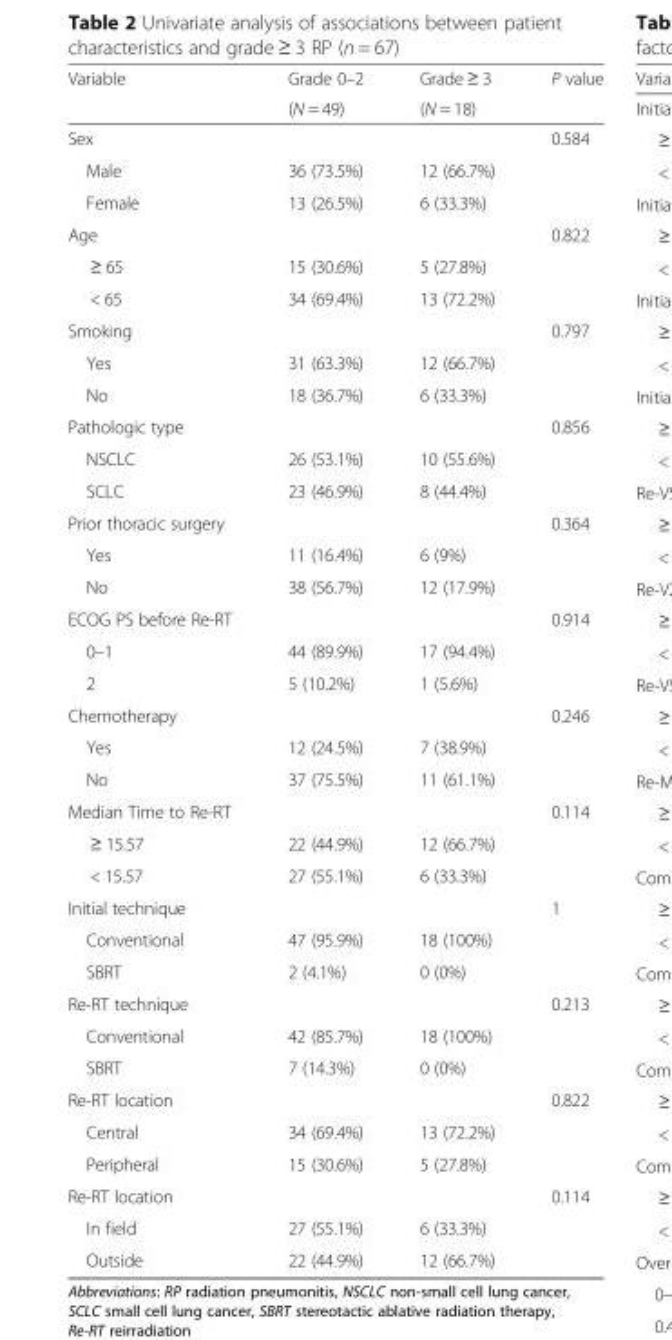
<table><thead><tr><td rowspan="2">Variable</td><td rowspan="2">Grade 0–2 (N = 49)</td><td rowspan="2">Grade ≥ 3 (N = 18)</td><td rowspan="2">P value</td></tr><tr></tr></thead><tbody><tr><td>Sex</td><td></td><td></td><td>0.584</td></tr><tr><td>Male</td><td>36 (73.5%)</td><td>12 (66.7%)</td><td></td></tr><tr><td>Female</td><td>13 (26.5%)</td><td>6 (33.3%)</td><td></td></tr><tr><td>Age</td><td></td><td></td><td>0.822</td></tr><tr><td>≥ 65</td><td>15 (30.6%)</td><td>5 (27.8%)</td><td></td></tr><tr><td>&lt; 65</td><td>34 (69.4%)</td><td>13 (72.2%)</td><td></td></tr><tr><td>Smoking</td><td></td><td></td><td>0.797</td></tr><tr><td>Yes</td><td>31 (63.3%)</td><td>12 (66.7%)</td><td></td></tr><tr><td>No</td><td>18 (36.7%)</td><td>6 (33.3%)</td><td></td></tr><tr><td>Pathologic type</td><td></td><td></td><td>0.856</td></tr><tr><td>NSCLC</td><td>26 (53.1%)</td><td>10 (55.6%)</td><td></td></tr><tr><td>SCLC</td><td>23 (46.9%)</td><td>8 (44.4%)</td><td></td></tr><tr><td>Prior thoracic surgery</td><td></td><td></td><td>0.364</td></tr><tr><td>Yes</td><td>11 (16.4%)</td><td>6 (9%)</td><td></td></tr><tr><td>No</td><td>38 (56.7%)</td><td>12 (17.9%)</td><td></td></tr><tr><td>ECOG PS before Re-RT</td><td></td><td></td><td>0.914</td></tr><tr><td>0–1</td><td>44 (89.9%)</td><td>17 (94.4%)</td><td></td></tr><tr><td>2</td><td>5 (10.2%)</td><td>1 (5.6%)</td><td></td></tr><tr><td>Chemotherapy</td><td></td><td></td><td>0.246</td></tr><tr><td>Yes</td><td>12 (24.5%)</td><td>7 (38.9%)</td><td></td></tr><tr><td>No</td><td>37 (75.5%)</td><td>11 (61.1%)</td><td></td></tr><tr><td>Median Time to Re-RT</td><td></td><td></td><td>0.114</td></tr><tr><td>≥ 15.57</td><td>22 (44.9%)</td><td>12 (66.7%)</td><td></td></tr><tr><td>&lt; 15.57</td><td>27 (55.1%)</td><td>6 (33.3%)</td><td></td></tr><tr><td>Initial technique</td><td></td><td></td><td>1</td></tr><tr><td>Conventional</td><td>47 (95.9%)</td><td>18 (100%)</td><td></td></tr><tr><td>SBRT</td><td>2 (4.1%)</td><td>0 (0%)</td><td></td></tr><tr><td>Re-RT technique</td><td></td><td></td><td>0.213</td></tr><tr><td>Conventional</td><td>42 (85.7%)</td><td>18 (100%)</td><td></td></tr><tr><td>SBRT</td><td>7 (14.3%)</td><td>0 (0%)</td><td></td></tr><tr><td>Re-RT location</td><td></td><td></td><td>0.822</td></tr><tr><td>Central</td><td>34 (69.4%)</td><td>13 (72.2%)</td><td></td></tr><tr><td>Peripheral</td><td>15 (30.6%)</td><td>5 (27.8%)</td><td></td></tr><tr><td>Re-RT location</td><td></td><td></td><td>0.114</td></tr><tr><td>In field</td><td>27 (55.1%)</td><td>6 (33.3%)</td><td></td></tr><tr><td>Outside</td><td>22 (44.9%)</td><td>12 (66.7%)</td><td></td></tr></tbody></table>